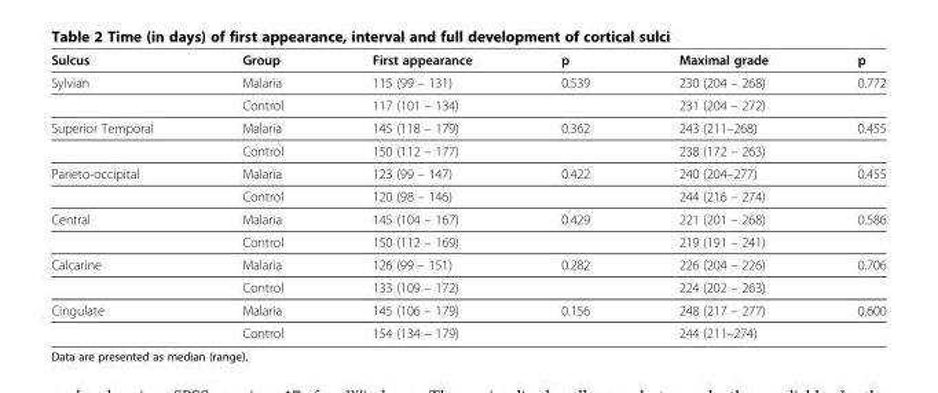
<table><thead><tr><td>Sulcus</td><td>Group</td><td>First appearance</td><td>p</td><td>Maximal grade</td><td>p</td></tr></thead><tbody><tr><td rowspan="2">Sylvian</td><td>Malaria</td><td>115 (99 – 131)</td><td>0.539</td><td>230 (204 – 268)</td><td>0.772</td></tr><tr><td>Control</td><td>117 (101 – 134)</td><td></td><td>231 (204 – 272)</td><td></td></tr><tr><td rowspan="2">Superior Temporal</td><td>Malaria</td><td>145 (118 – 179)</td><td>0.362</td><td>243 (211–268)</td><td>0.455</td></tr><tr><td>Control</td><td>150 (112 – 177)</td><td></td><td>238 (172 – 263)</td><td></td></tr><tr><td rowspan="2">Parieto-occipital</td><td>Malaria</td><td>123 (99 – 147)</td><td>0.422</td><td>240 (204–277)</td><td>0.455</td></tr><tr><td>Control</td><td>120 (98 – 146)</td><td></td><td>244 (216 – 274)</td><td></td></tr><tr><td rowspan="2">Central</td><td>Malaria</td><td>145 (104 – 167)</td><td>0.429</td><td>221 (201 – 268)</td><td>0.586</td></tr><tr><td>Control</td><td>150 (112 – 169)</td><td></td><td>219 (191 – 241)</td><td></td></tr><tr><td rowspan="2">Calcarine</td><td>Malaria</td><td>126 (99 – 151)</td><td>0.282</td><td>226 (204 – 226)</td><td>0.706</td></tr><tr><td>Control</td><td>133 (109 – 172)</td><td></td><td>224 (202 – 263)</td><td></td></tr><tr><td rowspan="2">Cingulate</td><td>Malaria</td><td>145 (106 – 179)</td><td>0.156</td><td>248 (217 – 277)</td><td>0.600</td></tr><tr><td>Control</td><td>154 (134 – 179)</td><td></td><td>244 (211–274)</td><td></td></tr></tbody></table>